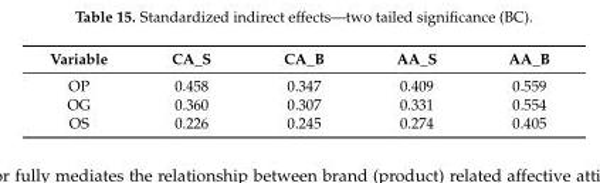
<table><thead><tr><td>Variable</td><td>CA_S</td><td>CA_B</td><td>AA_S</td><td>AA_B</td></tr></thead><tbody><tr><td>OP</td><td>0.458</td><td>0.347</td><td>0.409</td><td>0.559</td></tr><tr><td>OG</td><td>0.360</td><td>0.307</td><td>0.331</td><td>0.554</td></tr><tr><td>OS</td><td>0.226</td><td>0.245</td><td>0.274</td><td>0.405</td></tr></tbody></table>